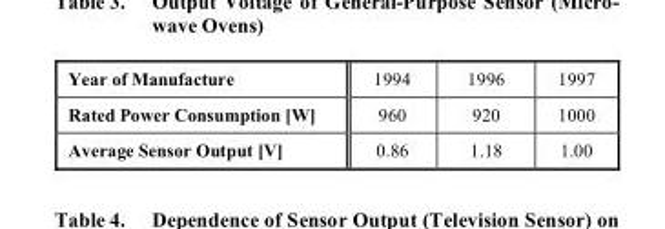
<table><tbody><tr><td>Year of Manufacture</td><td>1994</td><td>1996</td><td>1997</td></tr><tr><td>Rated Power Consumption [W]</td><td>960</td><td>920</td><td>1000</td></tr><tr><td>Average Sensor Output [V]</td><td>0.86</td><td>1.18</td><td>1.00</td></tr></tbody></table>